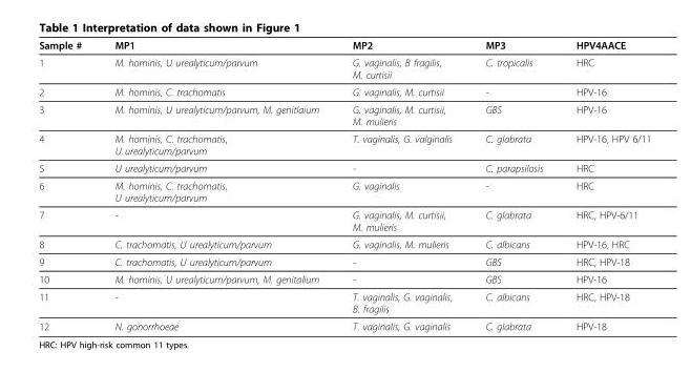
<table><thead><tr><td>Sample #</td><td>MP1</td><td>MP2</td><td>MP3</td><td>HPV4AACE</td></tr></thead><tbody><tr><td>1</td><td>M. hominis, U urealyticum/parvum</td><td>G. vaginalis, B fragilis, M. curtisii</td><td>C. tropicalis</td><td>HRC</td></tr><tr><td>2</td><td>M. hominis, C. trachomatis</td><td>G. vaginalis, M. curtisii</td><td>-</td><td>HPV-16</td></tr><tr><td>3</td><td>M. hominis, U urealyticum/parvum, M. genitlaium</td><td>G. vaginalis, M. curtisii, M. mulieris</td><td>GBS</td><td>HPV-16</td></tr><tr><td>4</td><td>M. hominis, C. trachomatis, U urealyticum/parvum</td><td>T. vaginalis, G. valginalis</td><td>C. glabrata</td><td>HPV-16, HPV 6/11</td></tr><tr><td>5</td><td>U urealyticum/parvum</td><td>-</td><td>C. parapsilosis</td><td>HRC</td></tr><tr><td>6</td><td>M. hominis, C. trachomatis, U urealyticum/parvum</td><td>G. vaginalis</td><td>-</td><td>HRC</td></tr><tr><td>7</td><td>-</td><td>G. vaginalis, M. curtisii, M. mulieris</td><td>C. glabrata</td><td>HRC, HPV-6/11</td></tr><tr><td>8</td><td>C. trachomatis, U urealyticum/parvum</td><td>G. vaginalis, M. mulieris</td><td>C. albicans</td><td>HPV-16, HRC</td></tr><tr><td>9</td><td>C. trachomatis, U urealyticum/parvum</td><td>-</td><td>GBS</td><td>HRC, HPV-18</td></tr><tr><td>10</td><td>M. hominis, U urealyticum/parvum, M. genitalium</td><td>-</td><td>GBS</td><td>HPV-16</td></tr><tr><td>11</td><td>-</td><td>T. vaginalis, G. vaginalis, B. fragilis</td><td>C. albicans</td><td>HRC, HPV-18</td></tr><tr><td>12</td><td>N. gonorrhoeae</td><td>T. vaginalis, G. vaginalis</td><td>C. glabrata</td><td>HPV-18</td></tr></tbody></table>